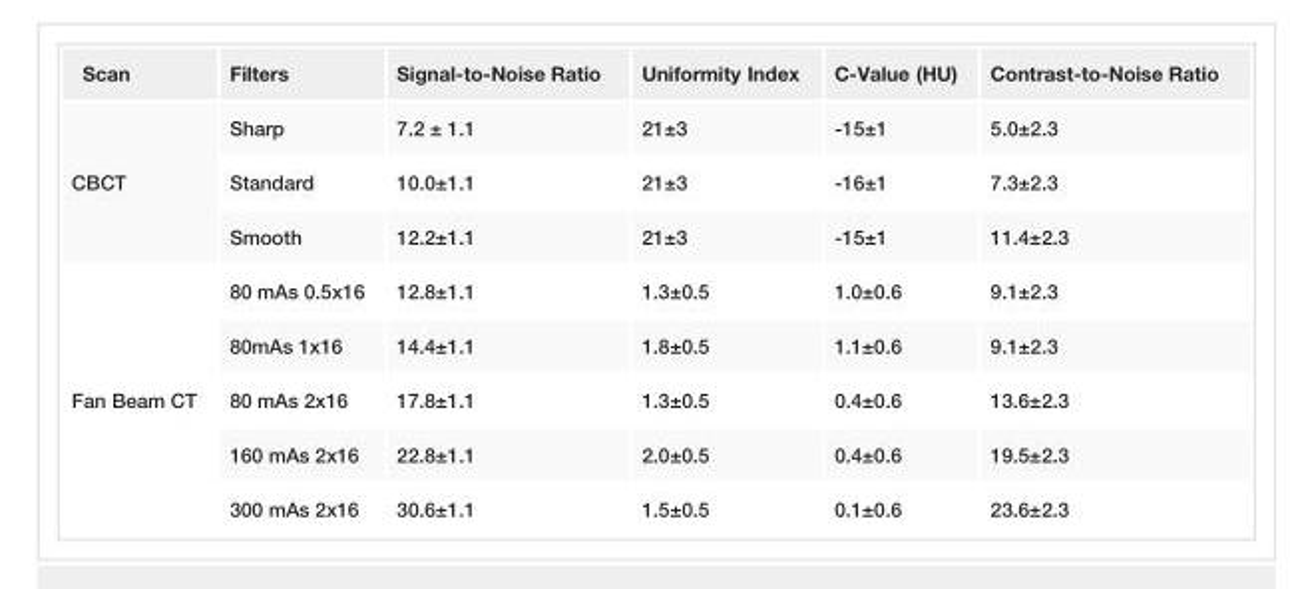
<table><tbody><tr><td>Scan</td><td>Filters</td><td>Signal-to-Noise Ratio</td><td>Uniformity Index</td><td>C-Value (HU)</td><td>Contrast-to-Noise Ratio</td></tr><tr><td rowspan="3">CBCT</td><td>Sharp</td><td>7.2 ± 1.1</td><td>21±3</td><td>-15±1</td><td>5.0±2.3</td></tr><tr><td>Standard</td><td>10.0±1.1</td><td>21±3</td><td>-16±1</td><td>7.3±2.3</td></tr><tr><td>Smooth</td><td>12.2±1.1</td><td>21±3</td><td>-15±1</td><td>11.4±2.3</td></tr><tr><td rowspan="5">Fan Beam CT</td><td>80 mAs 0.5x16</td><td>12.8±1.1</td><td>1.3±0.5</td><td>1.0±0.6</td><td>9.1±2.3</td></tr><tr><td>80mAs 1x16</td><td>14.4±1.1</td><td>1.8±0.5</td><td>1.1±0.6</td><td>9.1±2.3</td></tr><tr><td>80 mAs 2x16</td><td>17.8±1.1</td><td>1.3±0.5</td><td>0.4±0.6</td><td>13.6±2.3</td></tr><tr><td>160 mAs 2x16</td><td>22.8±1.1</td><td>2.0±0.5</td><td>0.4±0.6</td><td>19.5±2.3</td></tr><tr><td>300 mAs 2x16</td><td>30.6±1.1</td><td>1.5±0.5</td><td>0.1±0.6</td><td>23.6±2.3</td></tr></tbody></table>